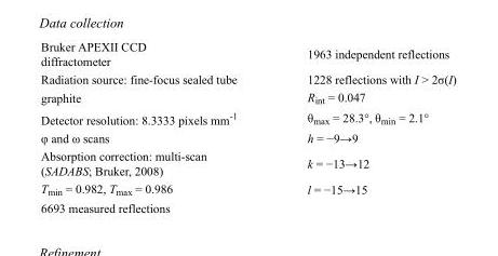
<table><tbody><tr><td>Bruker APEXII CCD diffractometer</td><td>1963 independent reflections</td></tr><tr><td>Radiation source: fine-focus sealed tube</td><td>1228 reflections with I &gt; 2σ(I)</td></tr><tr><td>graphite</td><td>R<sub>int</sub> = 0.047</td></tr><tr><td>Detector resolution: 8.3333 pixels mm<sup>-1</sup></td><td>θ<sub>max</sub> = 28.3°, θ<sub>min</sub> = 2.1°</td></tr><tr><td>φ and ω scans</td><td>h = −9→9</td></tr><tr><td>Absorption correction: multi-scan (SADABS; Bruker, 2008)</td><td>k = −13→12</td></tr><tr><td>T<sub>min</sub> = 0.982, T<sub>max</sub> = 0.986</td><td>l = −15→15</td></tr><tr><td>6693 measured reflections</td><td></td></tr></tbody></table>